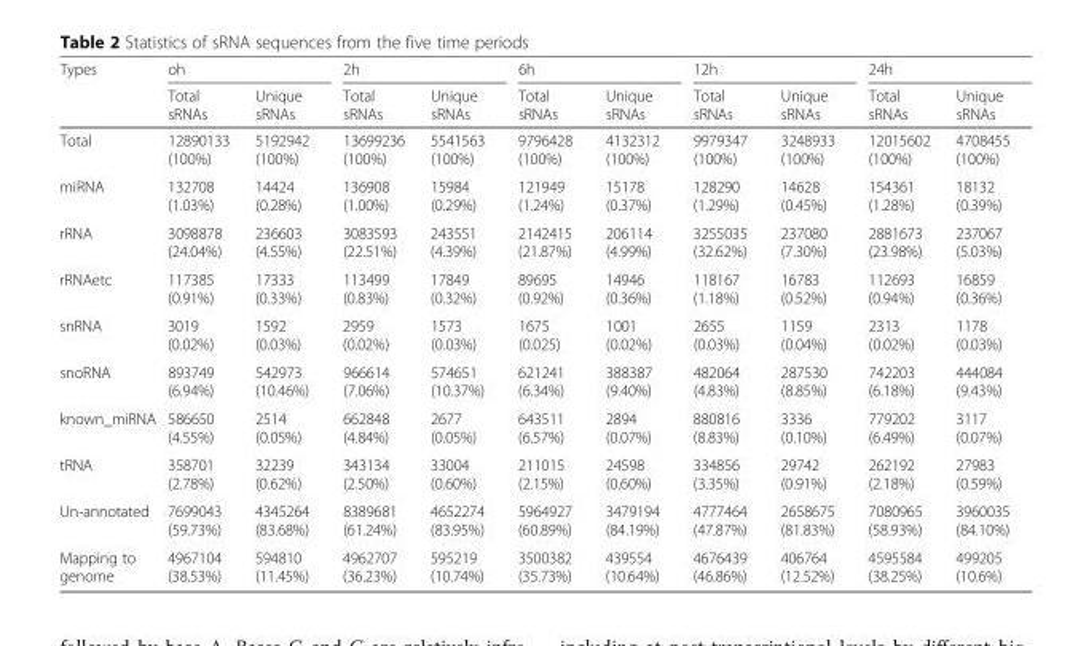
<table><thead><tr><td rowspan="2">Types</td><td colspan="2">oh</td><td colspan="2">2h</td><td colspan="2">6h</td><td colspan="2">12h</td><td colspan="2">24h</td></tr><tr><td>Total sRNAs</td><td>Unique sRNAs</td><td>Total sRNAs</td><td>Unique sRNAs</td><td>Total sRNAs</td><td>Unique sRNAs</td><td>Total sRNAs</td><td>Unique sRNAs</td><td>Total sRNAs</td><td>Unique sRNAs</td></tr></thead><tbody><tr><td>Total</td><td>12890133 (100%)</td><td>5192942 (100%)</td><td>13699236 (100%)</td><td>5541563 (100%)</td><td>9796428 (100%)</td><td>4132312 (100%)</td><td>9979347 (100%)</td><td>3248933 (100%)</td><td>12015602 (100%)</td><td>4708455 (100%)</td></tr><tr><td>miRNA</td><td>132708 (1.03%)</td><td>14424 (0.28%)</td><td>136908 (1.00%)</td><td>15984 (0.29%)</td><td>121949 (1.24%)</td><td>15178 (0.37%)</td><td>128290 (1.29%)</td><td>14628 (0.45%)</td><td>154361 (1.28%)</td><td>18132 (0.39%)</td></tr><tr><td>rRNA</td><td>3098878 (24.04%)</td><td>236603 (4.55%)</td><td>3083593 (22.51%)</td><td>243551 (4.39%)</td><td>2142415 (21.87%)</td><td>206114 (4.99%)</td><td>3255035 (32.62%)</td><td>237080 (7.30%)</td><td>2881673 (23.98%)</td><td>237067 (5.03%)</td></tr><tr><td>rRNAetc</td><td>117385 (0.91%)</td><td>17333 (0.33%)</td><td>113499 (0.83%)</td><td>17849 (0.32%)</td><td>89695 (0.92%)</td><td>14946 (0.36%)</td><td>118167 (1.18%)</td><td>16783 (0.52%)</td><td>112693 (0.94%)</td><td>16859 (0.36%)</td></tr><tr><td>snRNA</td><td>3019 (0.02%)</td><td>1592 (0.03%)</td><td>2959 (0.02%)</td><td>1573 (0.03%)</td><td>1675 (0.025)</td><td>1001 (0.02%)</td><td>2655 (0.03%)</td><td>1159 (0.04%)</td><td>2313 (0.02%)</td><td>1178 (0.03%)</td></tr><tr><td>snoRNA</td><td>893749 (6.94%)</td><td>542973 (10.46%)</td><td>966614 (7.06%)</td><td>574651 (10.37%)</td><td>621241 (6.34%)</td><td>388387 (9.40%)</td><td>482064 (4.83%)</td><td>287530 (8.85%)</td><td>742203 (6.18%)</td><td>444084 (9.43%)</td></tr><tr><td>known_miRNA</td><td>586650 (4.55%)</td><td>2514 (0.05%)</td><td>662848 (4.84%)</td><td>2677 (0.05%)</td><td>643511 (6.57%)</td><td>2894 (0.07%)</td><td>880816 (8.83%)</td><td>3336 (0.10%)</td><td>779202 (6.49%)</td><td>3117 (0.07%)</td></tr><tr><td>tRNA</td><td>358701 (2.78%)</td><td>32239 (0.62%)</td><td>343134 (2.50%)</td><td>33004 (0.60%)</td><td>211015 (2.15%)</td><td>24598 (0.60%)</td><td>334856 (3.35%)</td><td>29742 (0.91%)</td><td>262192 (2.18%)</td><td>27983 (0.59%)</td></tr><tr><td>Un-annotated</td><td>7699043 (59.73%)</td><td>4345264 (83.68%)</td><td>8389681 (61.24%)</td><td>4652274 (83.95%)</td><td>5964927 (60.89%)</td><td>3479194 (84.19%)</td><td>4777464 (47.87%)</td><td>2658675 (81.83%)</td><td>7080965 (58.93%)</td><td>3960035 (84.10%)</td></tr><tr><td>Mapping to genome</td><td>4967104 (38.53%)</td><td>594810 (11.45%)</td><td>4962707 (36.23%)</td><td>595219 (10.74%)</td><td>3500382 (35.73%)</td><td>439554 (10.64%)</td><td>4676439 (46.86%)</td><td>406764 (12.52%)</td><td>4595584 (38.25%)</td><td>499205 (10.6%)</td></tr></tbody></table>